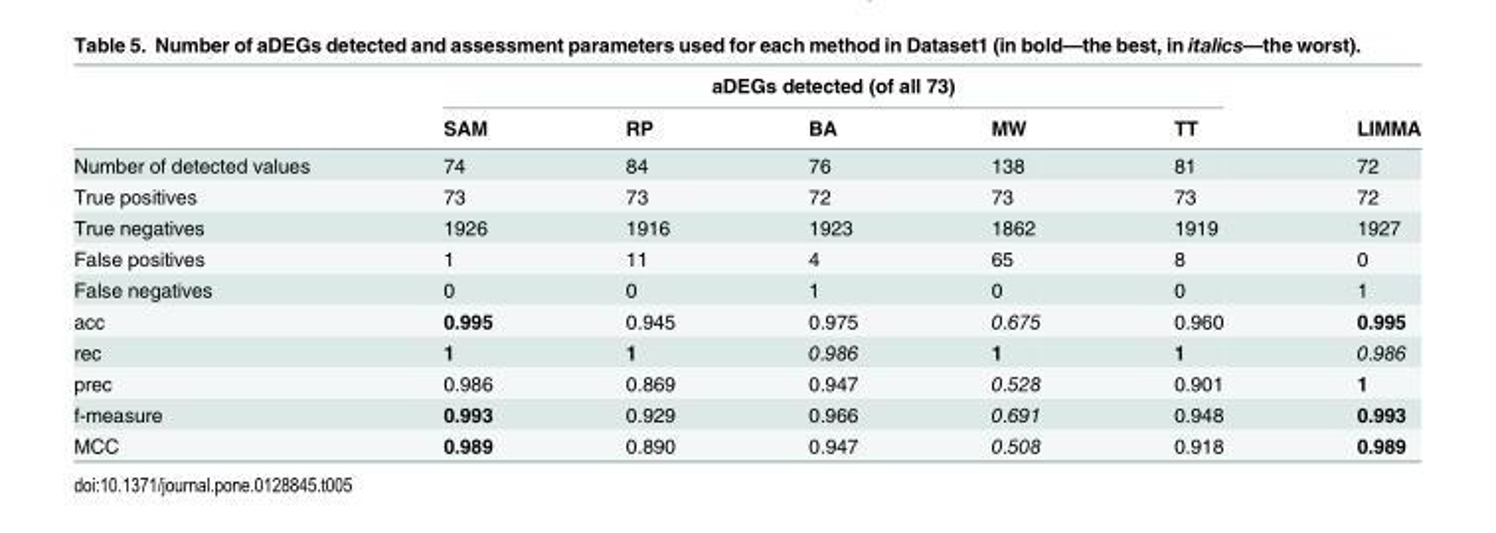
<table><thead><tr><td rowspan="2"></td><td colspan="5">aDEGs detected (of all 73)</td><td rowspan="2">LIMMA</td></tr><tr><td>SAM</td><td>RP</td><td>BA</td><td>MW</td><td>TT</td></tr></thead><tbody><tr><td>Number of detected values</td><td>74</td><td>84</td><td>76</td><td>138</td><td>81</td><td>72</td></tr><tr><td>True positives</td><td>73</td><td>73</td><td>72</td><td>73</td><td>73</td><td>72</td></tr><tr><td>True negatives</td><td>1926</td><td>1916</td><td>1923</td><td>1862</td><td>1919</td><td>1927</td></tr><tr><td>False positives</td><td>1</td><td>11</td><td>4</td><td>65</td><td>8</td><td>0</td></tr><tr><td>False negatives</td><td>0</td><td>0</td><td>1</td><td>0</td><td>0</td><td>1</td></tr><tr><td>acc</td><td>0.995</td><td>0.945</td><td>0.975</td><td>0.675</td><td>0.960</td><td>0.995</td></tr><tr><td>rec</td><td>1</td><td>1</td><td>0.986</td><td>1</td><td>1</td><td>0.986</td></tr><tr><td>prec</td><td>0.986</td><td>0.869</td><td>0.947</td><td>0.528</td><td>0.901</td><td>1</td></tr><tr><td>f-measure</td><td>0.993</td><td>0.929</td><td>0.966</td><td>0.691</td><td>0.948</td><td>0.993</td></tr><tr><td>MCC</td><td>0.989</td><td>0.890</td><td>0.947</td><td>0.508</td><td>0.918</td><td>0.989</td></tr></tbody></table>